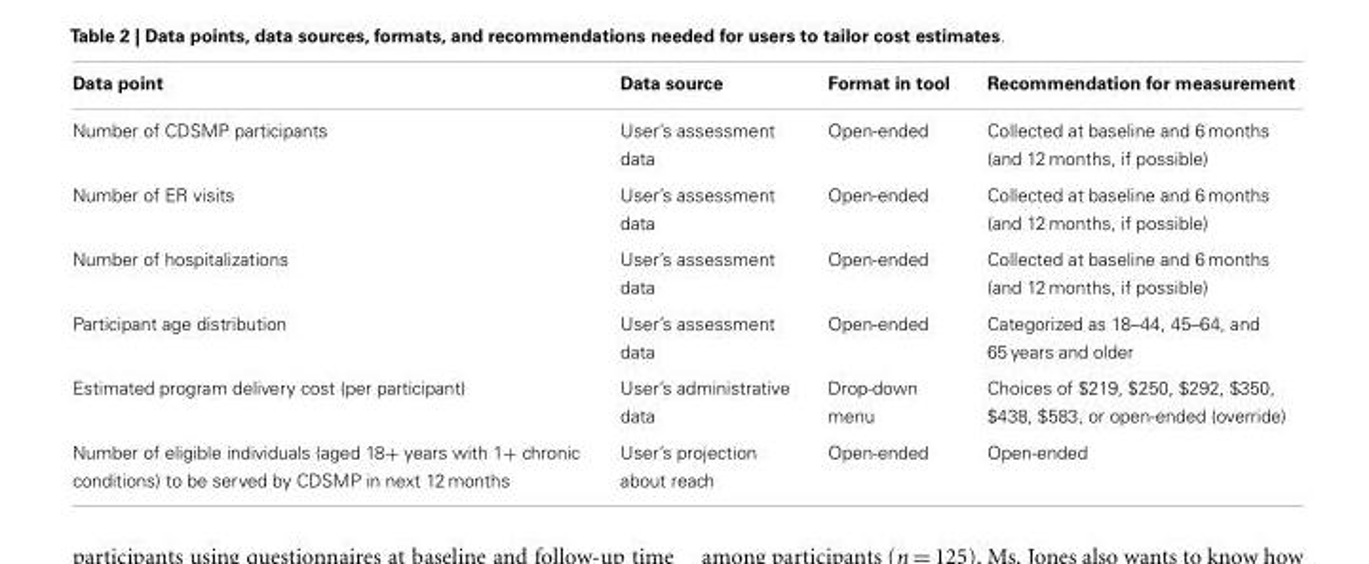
<table><thead><tr><td>Data point</td><td>Data source</td><td>Format in tool</td><td>Recommendation for measurement</td></tr></thead><tbody><tr><td>Number of CDSMP participants</td><td>User’s assessment data</td><td>Open-ended</td><td>Collected at baseline and 6 months (and 12 months, if possible)</td></tr><tr><td>Number of ER visits</td><td>User’s assessment data</td><td>Open-ended</td><td>Collected at baseline and 6 months (and 12 months, if possible)</td></tr><tr><td>Number of hospitalizations</td><td>User’s assessment data</td><td>Open-ended</td><td>Collected at baseline and 6 months (and 12 months, if possible)</td></tr><tr><td>Participant age distribution</td><td>User’s assessment data</td><td>Open-ended</td><td>Categorized as 18–44, 45–64, and 65 years and older</td></tr><tr><td>Estimated program delivery cost (per participant)</td><td>User’s administrative data</td><td>Drop-down menu</td><td>Choices of $219, $250, $292, $350, $438, $583, or open-ended (override)</td></tr><tr><td>Number of eligible individuals (aged 18+ years with 1+ chronic conditions) to be served by CDSMP in next 12 months</td><td>User’s projection about reach</td><td>Open-ended</td><td>Open-ended</td></tr></tbody></table>